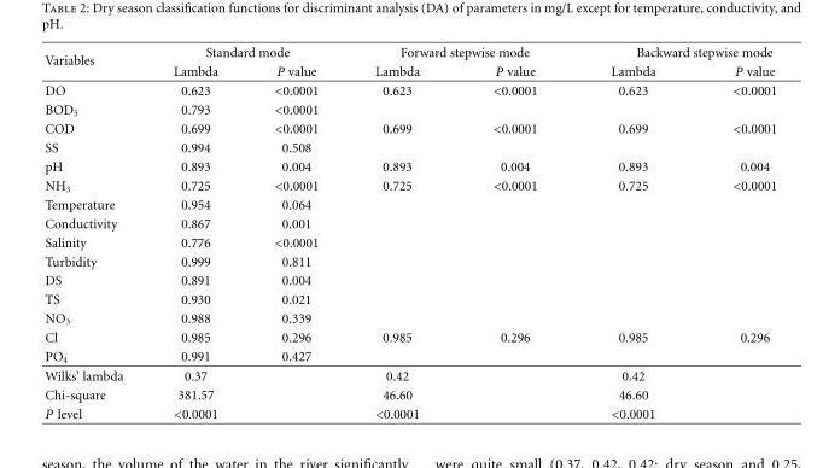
<table><thead><tr><td rowspan="2">Variables</td><td colspan="2">Standard mode</td><td colspan="2">Forward stepwise mode</td><td colspan="2">Backward stepwise mode</td></tr><tr><td>Lambda</td><td>P value</td><td>Lambda</td><td>P value</td><td>Lambda</td><td>P value</td></tr></thead><tbody><tr><td>DO</td><td>0.623</td><td>&lt;0.0001</td><td>0.623</td><td>&lt;0.0001</td><td>0.623</td><td>&lt;0.0001</td></tr><tr><td>BOD<sub>5</sub></td><td>0.793</td><td>&lt;0.0001</td><td></td><td></td><td></td><td></td></tr><tr><td>COD</td><td>0.699</td><td>&lt;0.0001</td><td>0.699</td><td>&lt;0.0001</td><td>0.699</td><td>&lt;0.0001</td></tr><tr><td>SS</td><td>0.994</td><td>0.508</td><td></td><td></td><td></td><td></td></tr><tr><td>pH</td><td>0.893</td><td>0.004</td><td>0.893</td><td>0.004</td><td>0.893</td><td>0.004</td></tr><tr><td>NH<sub>3</sub></td><td>0.725</td><td>&lt;0.0001</td><td>0.725</td><td>&lt;0.0001</td><td>0.725</td><td>&lt;0.0001</td></tr><tr><td>Temperature</td><td>0.954</td><td>0.064</td><td></td><td></td><td></td><td></td></tr><tr><td>Conductivity</td><td>0.867</td><td>0.001</td><td></td><td></td><td></td><td></td></tr><tr><td>Salinity</td><td>0.776</td><td>&lt;0.0001</td><td></td><td></td><td></td><td></td></tr><tr><td>Turbidity</td><td>0.999</td><td>0.811</td><td></td><td></td><td></td><td></td></tr><tr><td>DS</td><td>0.891</td><td>0.004</td><td></td><td></td><td></td><td></td></tr><tr><td>TS</td><td>0.930</td><td>0.021</td><td></td><td></td><td></td><td></td></tr><tr><td>NO<sub>3</sub></td><td>0.988</td><td>0.339</td><td></td><td></td><td></td><td></td></tr><tr><td>Cl</td><td>0.985</td><td>0.296</td><td>0.985</td><td>0.296</td><td>0.985</td><td>0.296</td></tr><tr><td>PO<sub>4</sub></td><td>0.991</td><td>0.427</td><td></td><td></td><td></td><td></td></tr><tr><td>Wilks’ lambda</td><td>0.37</td><td></td><td>0.42</td><td></td><td>0.42</td><td></td></tr><tr><td>Chi-square</td><td>381.57</td><td></td><td>46.60</td><td></td><td>46.60</td><td></td></tr><tr><td>P level</td><td>&lt;0.0001</td><td></td><td>&lt;0.0001</td><td></td><td>&lt;0.0001</td><td></td></tr></tbody></table>